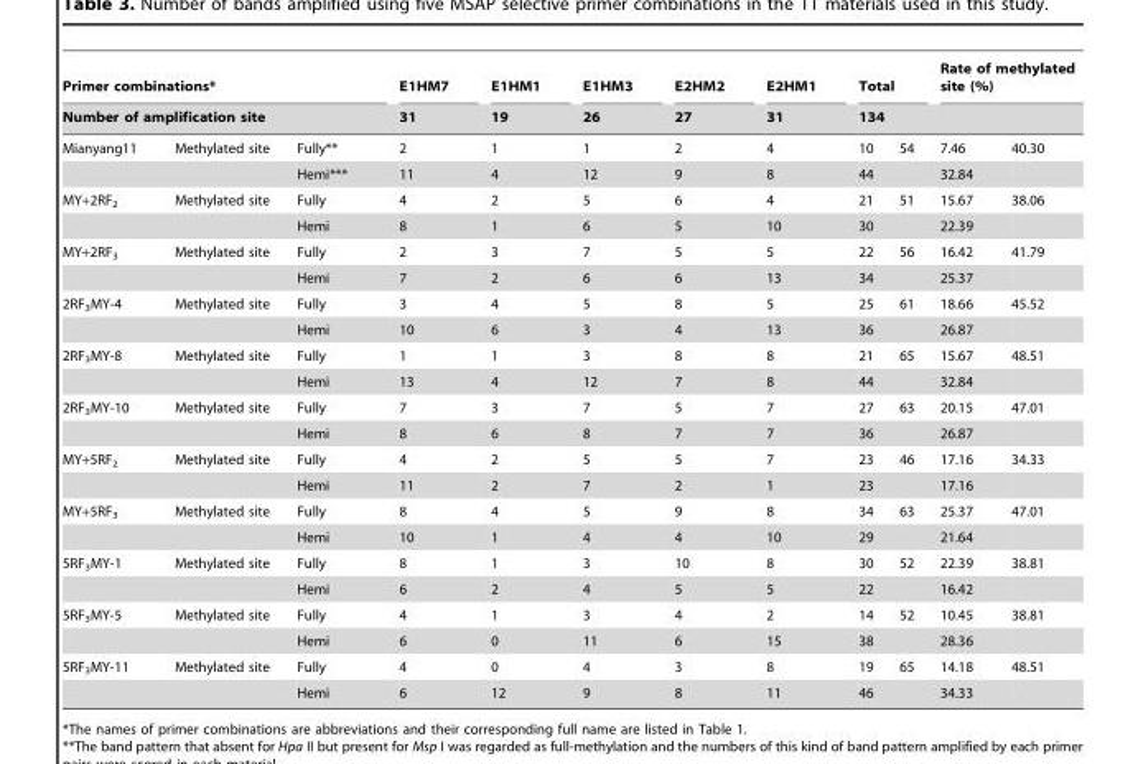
<table><thead><tr><td rowspan="2" colspan="3">Primer combinations* Number of amplification site</td><td rowspan="3">E1HM7 31 2</td><td rowspan="3">E1HM1 19 1</td><td rowspan="3">E1HM3 26 1</td><td rowspan="3">E2HM2 27 2</td><td rowspan="3">E2HM1 31 4</td><td rowspan="2" colspan="2">Total 134</td><td colspan="2">Rate of methylated site (%)</td></tr><tr><td rowspan="2">7.46</td><td rowspan="2">40.30</td></tr><tr><td>Mianyang11</td><td>Methylated site</td><td>Fully**</td><td>10</td><td>54</td></tr></thead><tbody><tr><td></td><td></td><td>Hemi***</td><td>11</td><td>4</td><td>12</td><td>9</td><td>8</td><td>44</td><td></td><td>32.84</td><td></td></tr><tr><td rowspan="2">MY+2RF<sub>2</sub></td><td>Methylated site</td><td>Fully</td><td>4</td><td>2</td><td>5</td><td>6</td><td>4</td><td>21</td><td>51</td><td>15.67</td><td>38.06</td></tr><tr><td></td><td>Hemi</td><td>8</td><td>1</td><td>6</td><td>5</td><td>10</td><td>30</td><td></td><td>22.39</td><td></td></tr><tr><td rowspan="2">MY+2RF<sub>3</sub></td><td>Methylated site</td><td>Fully</td><td>2</td><td>3</td><td>7</td><td>5</td><td>5</td><td>22</td><td>56</td><td>16.42</td><td>41.79</td></tr><tr><td></td><td>Hemi</td><td>7</td><td>2</td><td>6</td><td>6</td><td>13</td><td>34</td><td></td><td>25.37</td><td></td></tr><tr><td rowspan="2">2RF<sub>3</sub>MY-4</td><td>Methylated site</td><td>Fully</td><td>3</td><td>4</td><td>5</td><td>8</td><td>5</td><td>25</td><td>61</td><td>18.66</td><td>45.52</td></tr><tr><td></td><td>Hemi</td><td>10</td><td>6</td><td>3</td><td>4</td><td>13</td><td>36</td><td></td><td>26.87</td><td></td></tr><tr><td rowspan="2">2RF<sub>3</sub>MY-8</td><td>Methylated site</td><td>Fully</td><td>1</td><td>1</td><td>3</td><td>8</td><td>8</td><td>21</td><td>65</td><td>15.67</td><td>48.51</td></tr><tr><td></td><td>Hemi</td><td>13</td><td>4</td><td>12</td><td>7</td><td>8</td><td>44</td><td></td><td>32.84</td><td></td></tr><tr><td rowspan="2">2RF<sub>3</sub>MY-10</td><td>Methylated site</td><td>Fully</td><td>7</td><td>3</td><td>7</td><td>5</td><td>7</td><td>27</td><td>63</td><td>20.15</td><td>47.01</td></tr><tr><td></td><td>Hemi</td><td>8</td><td>6</td><td>8</td><td>7</td><td>7</td><td>36</td><td></td><td>26.87</td><td></td></tr><tr><td rowspan="2">MY+5RF<sub>2</sub></td><td>Methylated site</td><td>Fully</td><td>4</td><td>2</td><td>5</td><td>5</td><td>7</td><td>23</td><td>46</td><td>17.16</td><td>34.33</td></tr><tr><td></td><td>Hemi</td><td>11</td><td>2</td><td>7</td><td>2</td><td>1</td><td>23</td><td></td><td>17.16</td><td></td></tr><tr><td rowspan="2">MY+5RF<sub>3</sub></td><td>Methylated site</td><td>Fully</td><td>8</td><td>4</td><td>5</td><td>9</td><td>8</td><td>34</td><td>63</td><td>25.37</td><td>47.01</td></tr><tr><td></td><td>Hemi</td><td>10</td><td>1</td><td>4</td><td>4</td><td>10</td><td>29</td><td></td><td>21.64</td><td></td></tr><tr><td rowspan="2">5RF<sub>3</sub>MY-1</td><td>Methylated site</td><td>Fully</td><td>8</td><td>1</td><td>3</td><td>10</td><td>8</td><td>30</td><td>52</td><td>22.39</td><td>38.81</td></tr><tr><td></td><td>Hemi</td><td>6</td><td>2</td><td>4</td><td>5</td><td>5</td><td>22</td><td></td><td>16.42</td><td></td></tr><tr><td rowspan="2">5RF<sub>3</sub>MY-5</td><td>Methylated site</td><td>Fully</td><td>4</td><td>1</td><td>3</td><td>4</td><td>2</td><td>14</td><td>52</td><td>10.45</td><td>38.81</td></tr><tr><td></td><td>Hemi</td><td>6</td><td>0</td><td>11</td><td>6</td><td>15</td><td>38</td><td></td><td>28.36</td><td></td></tr><tr><td rowspan="2">5RF<sub>3</sub>MY-11</td><td>Methylated site</td><td>Fully</td><td>4</td><td>0</td><td>4</td><td>3</td><td>8</td><td>19</td><td>65</td><td>14.18</td><td>48.51</td></tr><tr><td></td><td>Hemi</td><td>6</td><td>12</td><td>9</td><td>8</td><td>11</td><td>46</td><td></td><td>34.33</td><td></td></tr></tbody></table>